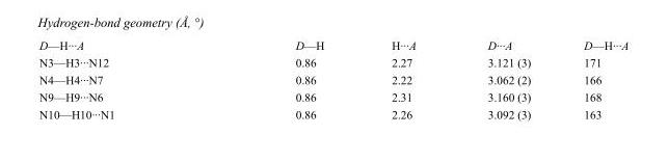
<table><tbody><tr><td>D—H···A</td><td>D—H</td><td>H···A</td><td>D···A</td><td>D—H···A</td></tr><tr><td>N3—H3···N12</td><td>0.86</td><td>2.27</td><td>3.121 (3)</td><td>171</td></tr><tr><td>N4—H4···N7</td><td>0.86</td><td>2.22</td><td>3.062 (2)</td><td>166</td></tr><tr><td>N9—H9···N6</td><td>0.86</td><td>2.31</td><td>3.160 (3)</td><td>168</td></tr><tr><td>N10—H10···N1</td><td>0.86</td><td>2.26</td><td>3.092 (3)</td><td>163</td></tr></tbody></table>